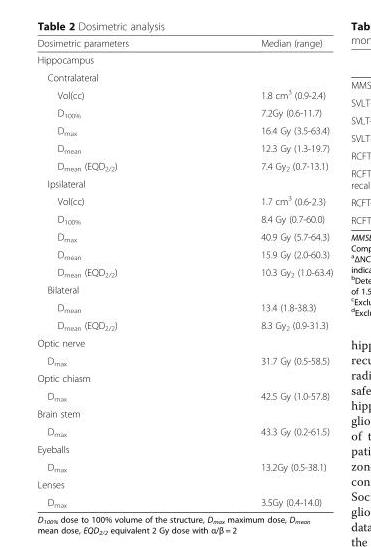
<table><thead><tr><td>Dosimetric parameters</td><td>Median (range)</td></tr></thead><tbody><tr><td colspan="2">Hippocampus</td></tr><tr><td colspan="2">Contralateral</td></tr><tr><td>Vol(cc)</td><td>1.8 cm<sup>3</sup> (0.9-2.4)</td></tr><tr><td>D<sub>100%</sub></td><td>7.2Gy (0.6-11.7)</td></tr><tr><td>D<sub>max</sub></td><td>16.4 Gy (3.5-63.4)</td></tr><tr><td>D<sub>mean</sub></td><td>12.3 Gy (1.3-19.7)</td></tr><tr><td>D<sub>mean</sub> (EQD<sub>2/2</sub>)</td><td>7.4 Gy<sub>2</sub> (0.7-13.1)</td></tr><tr><td colspan="2">Ipsilateral</td></tr><tr><td>Vol(cc)</td><td>1.7 cm<sup>3</sup> (0.6-2.3)</td></tr><tr><td>D<sub>100%</sub></td><td>8.4 Gy (0.7-60.0)</td></tr><tr><td>D<sub>max</sub></td><td>40.9 Gy (5.7-64.3)</td></tr><tr><td>D<sub>mean</sub></td><td>15.9 Gy (2.0-60.3)</td></tr><tr><td>D<sub>mean</sub> (EQD<sub>2/2</sub>)</td><td>10.3 Gy<sub>2</sub> (1.0-63.4)</td></tr><tr><td colspan="2">Bilateral</td></tr><tr><td>D<sub>mean</sub></td><td>13.4 (1.8-38.3)</td></tr><tr><td>D<sub>mean</sub> (EQD<sub>2/2</sub>)</td><td>8.3 Gy<sub>2</sub> (0.9-31.3)</td></tr><tr><td colspan="2">Optic nerve</td></tr><tr><td>D<sub>max</sub></td><td>31.7 Gy (0.5-58.5)</td></tr><tr><td colspan="2">Optic chiasm</td></tr><tr><td>D<sub>max</sub></td><td>42.5 Gy (1.0-57.8)</td></tr><tr><td colspan="2">Brain stem</td></tr><tr><td>D<sub>max</sub></td><td>43.3 Gy (0.2-61.5)</td></tr><tr><td colspan="2">Eyeballs</td></tr><tr><td>D<sub>max</sub></td><td>13.2Gy (0.5-38.1)</td></tr><tr><td colspan="2">Lenses</td></tr><tr><td>D<sub>max</sub></td><td>3.5Gy (0.4-14.0)</td></tr></tbody></table>